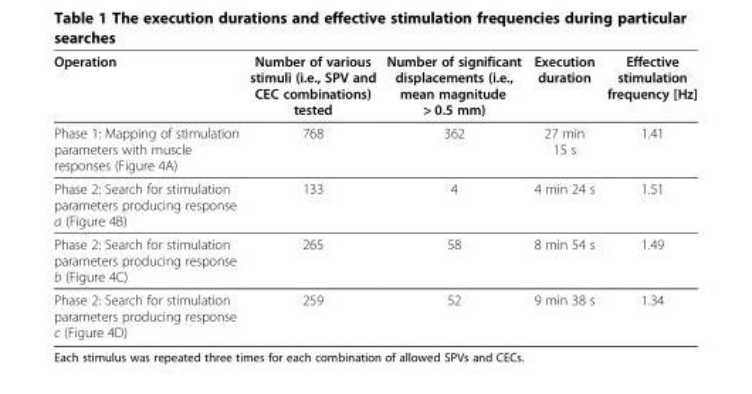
<table><thead><tr><td>Operation</td><td>Number of various stimuli (i.e., SPV and CEC combinations) tested</td><td>Number of significant displacements (i.e., mean magnitude &gt; 0.5 mm)</td><td>Execution duration</td><td>Effective stimulation frequency [Hz]</td></tr></thead><tbody><tr><td>Phase 1: Mapping of stimulation parameters with muscle responses (Figure 4A)</td><td>768</td><td>362</td><td>27 min 15 s</td><td>1.41</td></tr><tr><td>Phase 2: Search for stimulation parameters producing response a (Figure 4B)</td><td>133</td><td>4</td><td>4 min 24 s</td><td>1.51</td></tr><tr><td>Phase 2: Search for stimulation parameters producing response b (Figure 4C)</td><td>265</td><td>58</td><td>8 min 54 s</td><td>1.49</td></tr><tr><td>Phase 2: Search for stimulation parameters producing response c (Figure 4D)</td><td>259</td><td>52</td><td>9 min 38 s</td><td>1.34</td></tr></tbody></table>